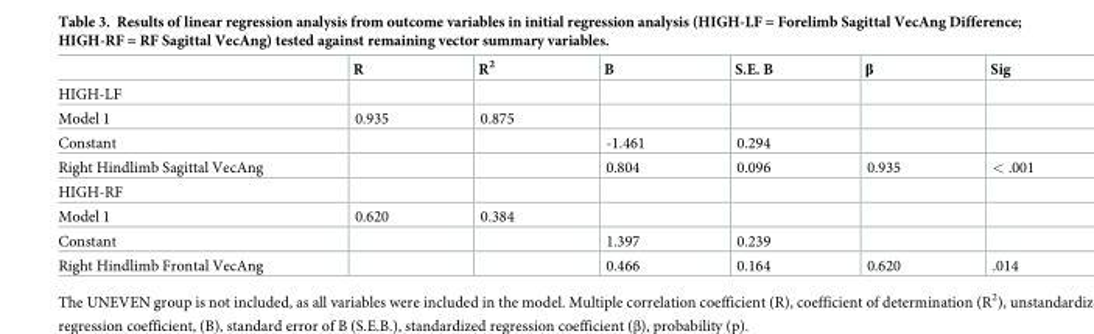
<table><thead><tr><td></td><td>R</td><td>R<sup>2</sup></td><td>B</td><td>S.E. B</td><td>β</td><td>Sig</td></tr></thead><tbody><tr><td colspan="7">HIGH-LF</td></tr><tr><td>Model 1</td><td>0.935</td><td>0.875</td><td></td><td></td><td></td><td></td></tr><tr><td>Constant</td><td></td><td></td><td>-1.461</td><td>0.294</td><td></td><td></td></tr><tr><td>Right Hindlimb Sagittal VecAng</td><td></td><td></td><td>0.804</td><td>0.096</td><td>0.935</td><td>&lt; .001</td></tr><tr><td colspan="7">HIGH-RF</td></tr><tr><td>Model 1</td><td>0.620</td><td>0.384</td><td></td><td></td><td></td><td></td></tr><tr><td>Constant</td><td></td><td></td><td>1.397</td><td>0.239</td><td></td><td></td></tr><tr><td>Right Hindlimb Frontal VecAng</td><td></td><td></td><td>0.466</td><td>0.164</td><td>0.620</td><td>.014</td></tr></tbody></table>